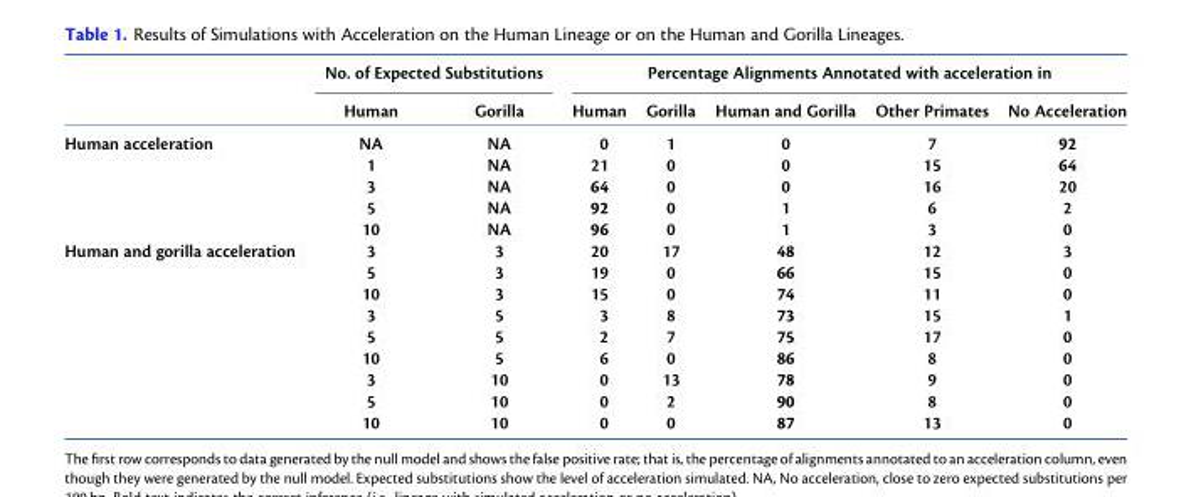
<table><thead><tr><td rowspan="2"></td><td colspan="2">No. of Expected Substitutions</td><td colspan="5">Percentage Alignments Annotated with acceleration in</td></tr><tr><td>Human</td><td>Gorilla</td><td>Human</td><td>Gorilla</td><td>Human and Gorilla</td><td>Other Primates</td><td>No Acceleration</td></tr></thead><tbody><tr><td rowspan="5">Human acceleration</td><td>NA</td><td>NA</td><td>0</td><td>1</td><td>0</td><td>7</td><td>92</td></tr><tr><td>1</td><td>NA</td><td>21</td><td>0</td><td>0</td><td>15</td><td>64</td></tr><tr><td>3</td><td>NA</td><td>64</td><td>0</td><td>0</td><td>16</td><td>20</td></tr><tr><td>5</td><td>NA</td><td>92</td><td>0</td><td>1</td><td>6</td><td>2</td></tr><tr><td>10</td><td>NA</td><td>96</td><td>0</td><td>1</td><td>3</td><td>0</td></tr><tr><td rowspan="9">Human and gorilla acceleration</td><td>3</td><td>3</td><td>20</td><td>17</td><td>48</td><td>12</td><td>3</td></tr><tr><td>5</td><td>3</td><td>19</td><td>0</td><td>66</td><td>15</td><td>0</td></tr><tr><td>10</td><td>3</td><td>15</td><td>0</td><td>74</td><td>11</td><td>0</td></tr><tr><td>3</td><td>5</td><td>3</td><td>8</td><td>73</td><td>15</td><td>1</td></tr><tr><td>5</td><td>5</td><td>2</td><td>7</td><td>75</td><td>17</td><td>0</td></tr><tr><td>10</td><td>5</td><td>6</td><td>0</td><td>86</td><td>8</td><td>0</td></tr><tr><td>3</td><td>10</td><td>0</td><td>13</td><td>78</td><td>9</td><td>0</td></tr><tr><td>5</td><td>10</td><td>0</td><td>2</td><td>90</td><td>8</td><td>0</td></tr><tr><td>10</td><td>10</td><td>0</td><td>0</td><td>87</td><td>13</td><td>0</td></tr></tbody></table>